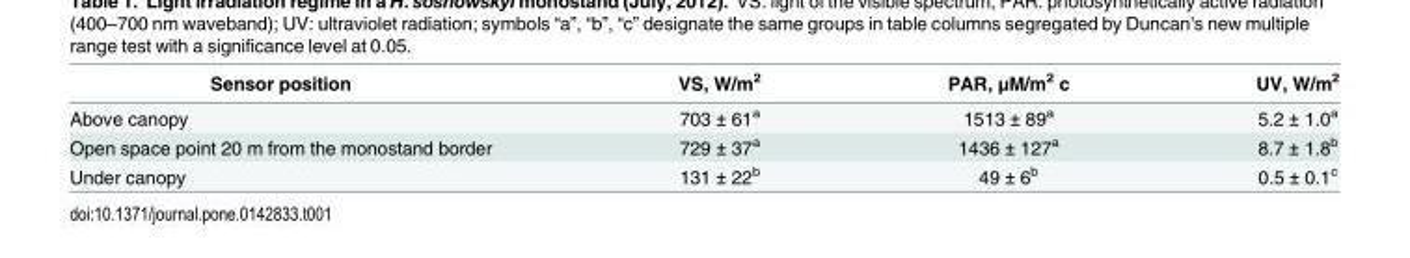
<table><thead><tr><td>Sensor position</td><td>VS, W/m<sup>2</sup></td><td>PAR, μM/m<sup>2</sup> c</td><td>UV, W/m<sup>2</sup></td></tr></thead><tbody><tr><td>Above canopy</td><td>703 ± 61<sup>a</sup></td><td>1513 ± 89<sup>a</sup></td><td>5.2 ± 1.0<sup>a</sup></td></tr><tr><td>Open space point 20 m from the monostand border</td><td>729 ± 37<sup>a</sup></td><td>1436 ± 127<sup>a</sup></td><td>8.7 ± 1.8<sup>b</sup></td></tr><tr><td>Under canopy</td><td>131 ± 22<sup>b</sup></td><td>49 ± 6<sup>b</sup></td><td>0.5 ± 0.1<sup>c</sup></td></tr></tbody></table>